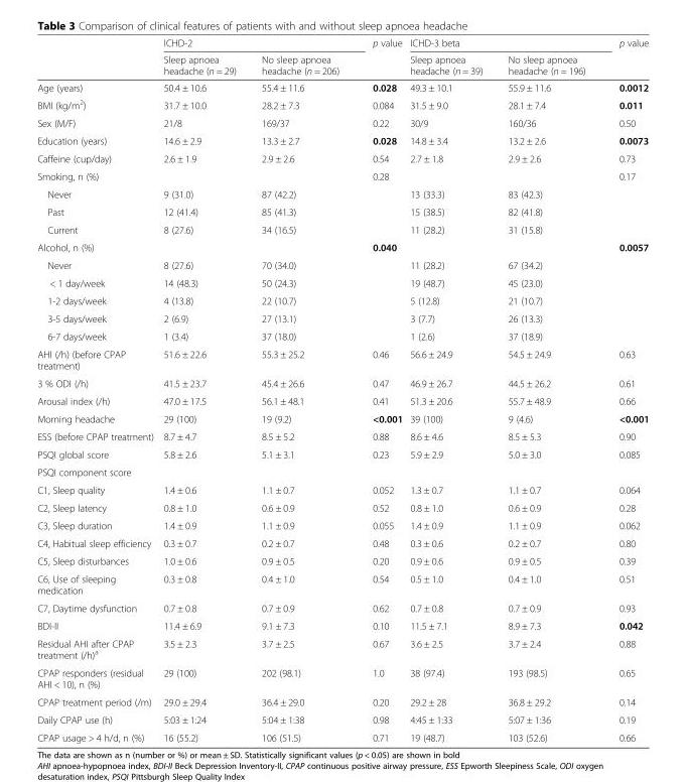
<table><thead><tr><td rowspan="2"></td><td colspan="2">ICHD-2</td><td rowspan="2">p value</td><td colspan="2">ICHD-3 beta</td><td rowspan="2">p value</td></tr><tr><td>Sleep apnoea headache (n = 29)</td><td>No sleep apnoea headache (n = 206)</td><td>Sleep apnoea headache (n = 39)</td><td>No sleep apnoea headache (n = 196)</td></tr></thead><tbody><tr><td>Age (years)</td><td>50.4 ± 10.6</td><td>55.4 ± 11.6</td><td>0.028</td><td>49.3 ± 10.1</td><td>55.9 ± 11.6</td><td>0.0012</td></tr><tr><td>BMI (kg/m<sup>2</sup>)</td><td>31.7 ± 10.0</td><td>28.2 ± 7.3</td><td>0.084</td><td>31.5 ± 9.0</td><td>28.1 ± 7.4</td><td>0.011</td></tr><tr><td>Sex (M/F)</td><td>21/8</td><td>169/37</td><td>0.22</td><td>30/9</td><td>160/36</td><td>0.50</td></tr><tr><td>Education (years)</td><td>14.6 ± 2.9</td><td>13.3 ± 2.7</td><td>0.028</td><td>14.8 ± 3.4</td><td>13.2 ± 2.6</td><td>0.0073</td></tr><tr><td>Caffeine (cup/day)</td><td>2.6 ± 1.9</td><td>2.9 ± 2.6</td><td>0.54</td><td>2.7 ± 1.8</td><td>2.9 ± 2.6</td><td>0.73</td></tr><tr><td>Smoking, n (%)</td><td></td><td></td><td>0.28</td><td></td><td></td><td>0.17</td></tr><tr><td>Never</td><td>9 (31.0)</td><td>87 (42.2)</td><td></td><td>13 (33.3)</td><td>83 (42.3)</td><td></td></tr><tr><td>Past</td><td>12 (41.4)</td><td>85 (41.3)</td><td></td><td>15 (38.5)</td><td>82 (41.8)</td><td></td></tr><tr><td>Current</td><td>8 (27.6)</td><td>34 (16.5)</td><td></td><td>11 (28.2)</td><td>31 (15.8)</td><td></td></tr><tr><td>Alcohol, n (%)</td><td></td><td></td><td>0.040</td><td></td><td></td><td>0.0057</td></tr><tr><td>Never</td><td>8 (27.6)</td><td>70 (34.0)</td><td></td><td>11 (28.2)</td><td>67 (34.2)</td><td></td></tr><tr><td>&lt; 1 day/week</td><td>14 (48.3)</td><td>50 (24.3)</td><td></td><td>19 (48.7)</td><td>45 (23.0)</td><td></td></tr><tr><td>1-2 days/week</td><td>4 (13.8)</td><td>22 (10.7)</td><td></td><td>5 (12.8)</td><td>21 (10.7)</td><td></td></tr><tr><td>3-5 days/week</td><td>2 (6.9)</td><td>27 (13.1)</td><td></td><td>3 (7.7)</td><td>26 (13.3)</td><td></td></tr><tr><td>6-7 days/week</td><td>1 (3.4)</td><td>37 (18.0)</td><td></td><td>1 (2.6)</td><td>37 (18.9)</td><td></td></tr><tr><td>AHI (/h) (before CPAP treatment)</td><td>51.6 ± 22.6</td><td>55.3 ± 25.2</td><td>0.46</td><td>56.6 ± 24.9</td><td>54.5 ± 24.9</td><td>0.63</td></tr><tr><td>3 % ODI (/h)</td><td>41.5 ± 23.7</td><td>45.4 ± 26.6</td><td>0.47</td><td>46.9 ± 26.7</td><td>44.5 ± 26.2</td><td>0.61</td></tr><tr><td>Arousal index (/h)</td><td>47.0 ± 17.5</td><td>56.1 ± 48.1</td><td>0.41</td><td>51.3 ± 20.6</td><td>55.7 ± 48.9</td><td>0.66</td></tr><tr><td>Morning headache</td><td>29 (100)</td><td>19 (9.2)</td><td>&lt;0.001</td><td>39 (100)</td><td>9 (4.6)</td><td>&lt;0.001</td></tr><tr><td>ESS (before CPAP treatment)</td><td>8.7 ± 4.7</td><td>8.5 ± 5.2</td><td>0.88</td><td>8.6 ± 4.6</td><td>8.5 ± 5.3</td><td>0.90</td></tr><tr><td>PSQI global score</td><td>5.8 ± 2.6</td><td>5.1 ± 3.1</td><td>0.23</td><td>5.9 ± 2.9</td><td>5.0 ± 3.0</td><td>0.085</td></tr><tr><td colspan="7">PSQI component score</td></tr><tr><td>C1, Sleep quality</td><td>1.4 ± 0.6</td><td>1.1 ± 0.7</td><td>0.052</td><td>1.3 ± 0.7</td><td>1.1 ± 0.7</td><td>0.064</td></tr><tr><td>C2, Sleep latency</td><td>0.8 ± 1.0</td><td>0.6 ± 0.9</td><td>0.52</td><td>0.8 ± 1.0</td><td>0.6 ± 0.9</td><td>0.28</td></tr><tr><td>C3, Sleep duration</td><td>1.4 ± 0.9</td><td>1.1 ± 0.9</td><td>0.055</td><td>1.4 ± 0.9</td><td>1.1 ± 0.9</td><td>0.062</td></tr><tr><td>C4, Habitual sleep efficiency</td><td>0.3 ± 0.7</td><td>0.2 ± 0.7</td><td>0.48</td><td>0.3 ± 0.6</td><td>0.2 ± 0.7</td><td>0.80</td></tr><tr><td>C5, Sleep disturbances</td><td>1.0 ± 0.6</td><td>0.9 ± 0.5</td><td>0.20</td><td>0.9 ± 0.6</td><td>0.9 ± 0.5</td><td>0.39</td></tr><tr><td>C6, Use of sleeping medication</td><td>0.3 ± 0.8</td><td>0.4 ± 1.0</td><td>0.54</td><td>0.5 ± 1.0</td><td>0.4 ± 1.0</td><td>0.51</td></tr><tr><td>C7, Daytime dysfunction</td><td>0.7 ± 0.8</td><td>0.7 ± 0.9</td><td>0.62</td><td>0.7 ± 0.8</td><td>0.7 ± 0.9</td><td>0.93</td></tr><tr><td>BDI-II</td><td>11.4 ± 6.9</td><td>9.1 ± 7.3</td><td>0.10</td><td>11.5 ± 7.1</td><td>8.9 ± 7.3</td><td>0.042</td></tr><tr><td>Residual AHI after CPAP treatment (/h)<sup>a</sup></td><td>3.5 ± 2.3</td><td>3.7 ± 2.5</td><td>0.67</td><td>3.6 ± 2.5</td><td>3.7 ± 2.4</td><td>0.88</td></tr><tr><td>CPAP responders (residual AHI &lt; 10), n (%)</td><td>29 (100)</td><td>202 (98.1)</td><td>1.0</td><td>38 (97.4)</td><td>193 (98.5)</td><td>0.65</td></tr><tr><td>CPAP treatment period (/m)</td><td>29.0 ± 29.4</td><td>36.4 ± 29.0</td><td>0.20</td><td>29.2 ± 28</td><td>36.8 ± 29.2</td><td>0.14</td></tr><tr><td>Daily CPAP use (h)</td><td>5:03 ± 1:24</td><td>5:04 ± 1:38</td><td>0.98</td><td>4:45 ± 1:33</td><td>5:07 ± 1:36</td><td>0.19</td></tr><tr><td>CPAP usage &gt; 4 h/d, n (%)</td><td>16 (55.2)</td><td>106 (51.5)</td><td>0.71</td><td>19 (48.7)</td><td>103 (52.6)</td><td>0.66</td></tr></tbody></table>